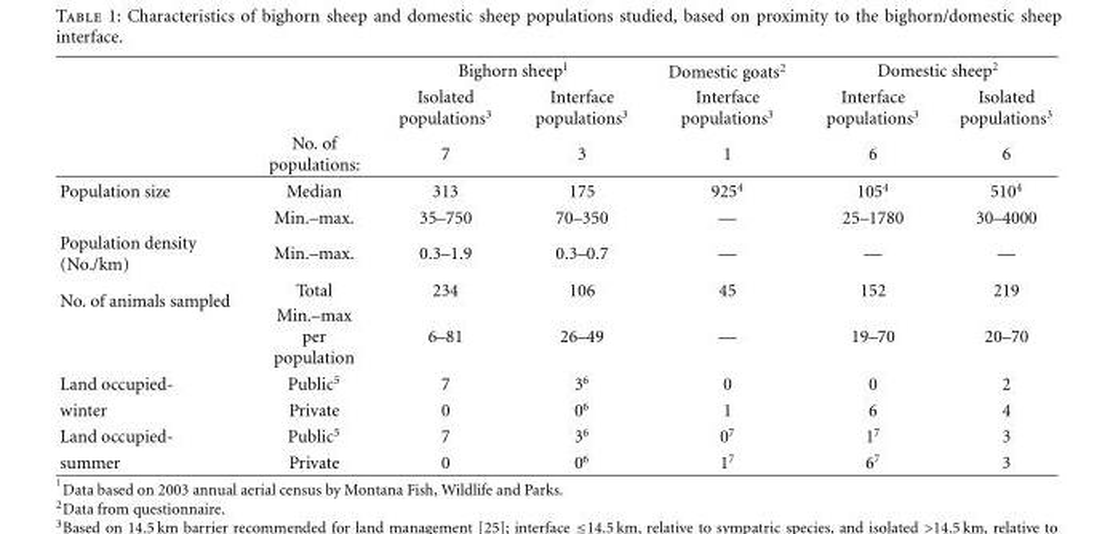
<table><thead><tr><td rowspan="3"></td><td rowspan="3">No. of populations:</td><td colspan="2">Bighorn sheep<sup>1</sup></td><td rowspan="3">Domestic goats<sup>2</sup> Interface populations<sup>3</sup> 1</td><td colspan="2">Domestic sheep<sup>2</sup></td></tr><tr><td rowspan="2">Isolated populations<sup>3</sup> 7</td><td rowspan="2">Interface populations<sup>3</sup> 3</td><td rowspan="2">Interface populations<sup>3</sup> 6</td><td rowspan="2">Isolated populations<sup>3</sup> 6</td></tr><tr></tr></thead><tbody><tr><td rowspan="2">Population size</td><td>Median</td><td>313</td><td>175</td><td>925<sup>4</sup></td><td>105<sup>4</sup></td><td>510<sup>4</sup></td></tr><tr><td>Min.–max.</td><td>35–750</td><td>70–350</td><td>—</td><td>25–1780</td><td>30–4000</td></tr><tr><td>Population density (No./km)</td><td>Min.–max.</td><td>0.3–1.9</td><td>0.3–0.7</td><td>—</td><td>—</td><td>—</td></tr><tr><td rowspan="2">No. of animals sampled</td><td>Total</td><td>234</td><td>106</td><td>45</td><td>152</td><td>219</td></tr><tr><td>Min.–max per population</td><td>6–81</td><td>26–49</td><td>—</td><td>19–70</td><td>20–70</td></tr><tr><td>Land occupied-</td><td>Public<sup>5</sup></td><td>7</td><td>3<sup>6</sup></td><td>0</td><td>0</td><td>2</td></tr><tr><td>winter</td><td>Private</td><td>0</td><td>0<sup>6</sup></td><td>1</td><td>6</td><td>4</td></tr><tr><td>Land occupied-</td><td>Public<sup>5</sup></td><td>7</td><td>3<sup>6</sup></td><td>0<sup>7</sup></td><td>1<sup>7</sup></td><td>3</td></tr><tr><td>summer</td><td>Private</td><td>0</td><td>0<sup>6</sup></td><td>1<sup>7</sup></td><td>6<sup>7</sup></td><td>3</td></tr></tbody></table>